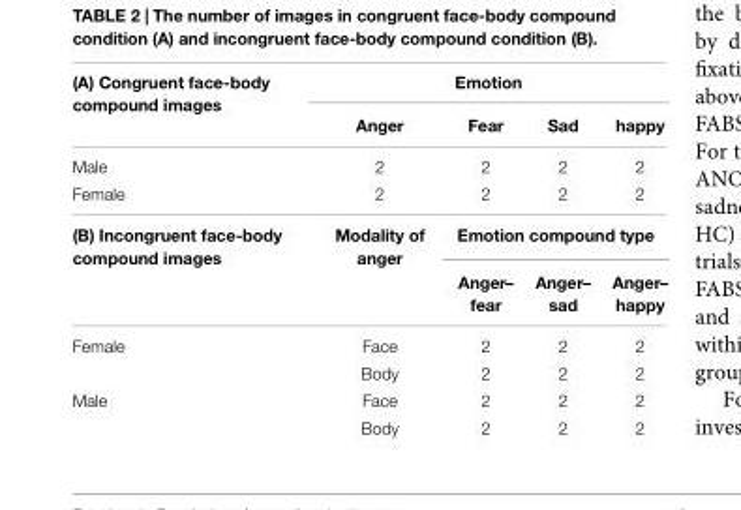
<table><thead><tr><td rowspan="2">(A) Congruent face-body compound images</td><td colspan="4">Emotion</td></tr><tr><td>Anger</td><td>Fear</td><td>Sad</td><td>happy</td></tr></thead><tbody><tr><td>Male</td><td>2</td><td>2</td><td>2</td><td>2</td></tr><tr><td>Female</td><td>2</td><td>2</td><td>2</td><td>2</td></tr><tr><td rowspan="2">(B) Incongruent face-body compound images</td><td>Modality of anger</td><td colspan="3">Emotion compound type</td></tr><tr><td></td><td>Anger– fear</td><td>Anger– sad</td><td>Anger– happy</td></tr><tr><td rowspan="2">Female</td><td>Face</td><td>2</td><td>2</td><td>2</td></tr><tr><td>Body</td><td>2</td><td>2</td><td>2</td></tr><tr><td rowspan="2">Male</td><td>Face</td><td>2</td><td>2</td><td>2</td></tr><tr><td>Body</td><td>2</td><td>2</td><td>2</td></tr></tbody></table>